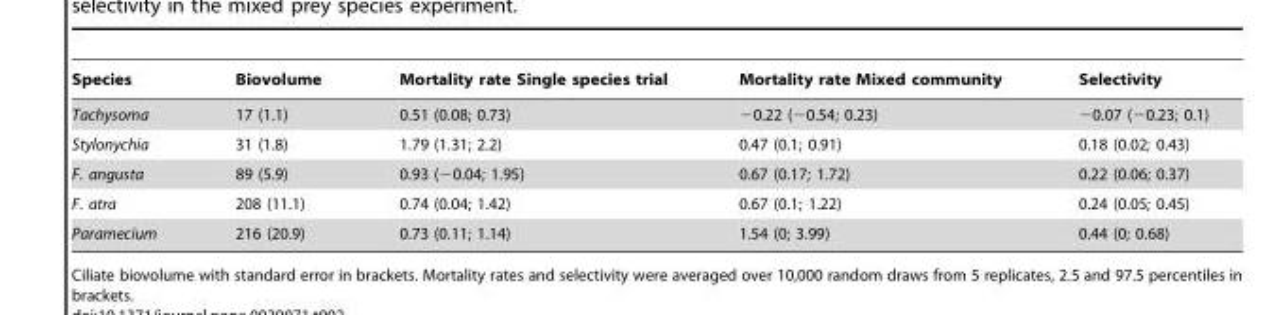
<table><thead><tr><td>Species</td><td>Biovolume</td><td>Mortality rate Single species trial</td><td>Mortality rate Mixed community</td><td>Selectivity</td></tr></thead><tbody><tr><td>Tachysoma</td><td>17 (1.1)</td><td>0.51 (0.08; 0.73)</td><td>−0.22 (−0.54; 0.23)</td><td>−0.07 (−0.23; 0.1)</td></tr><tr><td>Stylonychia</td><td>31 (1.8)</td><td>1.79 (1.31; 2.2)</td><td>0.47 (0.1; 0.91)</td><td>0.18 (0.02; 0.43)</td></tr><tr><td>F. angusta</td><td>89 (5.9)</td><td>0.93 (−0.04; 1.95)</td><td>0.67 (0.17; 1.72)</td><td>0.22 (0.06; 0.37)</td></tr><tr><td>F. atra</td><td>208 (11.1)</td><td>0.74 (0.04; 1.42)</td><td>0.67 (0.1; 1.22)</td><td>0.24 (0.05; 0.45)</td></tr><tr><td>Paramecium</td><td>216 (20.9)</td><td>0.73 (0.11; 1.14)</td><td>1.54 (0; 3.99)</td><td>0.44 (0; 0.68)</td></tr></tbody></table>